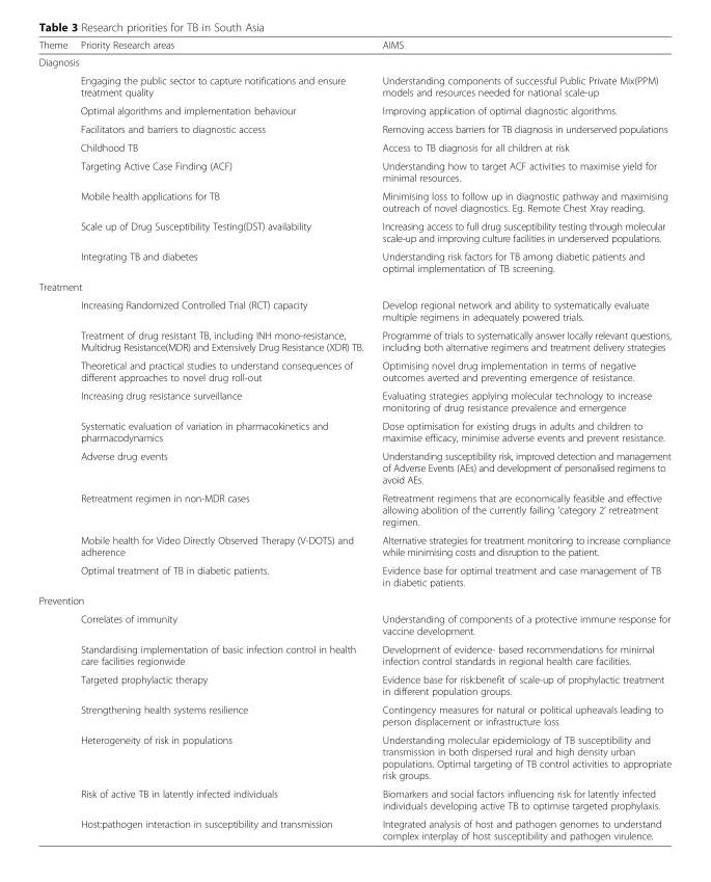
<table><thead><tr><td>Theme</td><td>Priority Research areas</td><td>AIMS</td></tr></thead><tbody><tr><td colspan="3">Diagnosis</td></tr><tr><td></td><td>Engaging the public sector to capture notifications and ensure treatment quality</td><td>Understanding components of successful Public Private Mix(PPM) models and resources needed for national scale-up</td></tr><tr><td></td><td>Optimal algorithms and implementation behaviour</td><td>Improving application of optimal diagnostic algorithms.</td></tr><tr><td></td><td>Facilitators and barriers to diagnostic access</td><td>Removing access barriers for TB diagnosis in underserved populations</td></tr><tr><td></td><td>Childhood TB</td><td>Access to TB diagnosis for all children at risk</td></tr><tr><td></td><td>Targeting Active Case Finding (ACF)</td><td>Understanding how to target ACF activities to maximise yield for minimal resources.</td></tr><tr><td></td><td>Mobile health applications for TB</td><td>Minimising loss to follow up in diagnostic pathway and maximising outreach of novel diagnostics. Eg. Remote Chest Xray reading.</td></tr><tr><td></td><td>Scale up of Drug Susceptibility Testing(DST) availability</td><td>Increasing access to full drug susceptibility testing through molecular scale-up and improving culture facilities in underserved populations.</td></tr><tr><td></td><td>Integrating TB and diabetes</td><td>Understanding risk factors for TB among diabetic patients and optimal implementation of TB screening.</td></tr><tr><td colspan="3">Treatment</td></tr><tr><td></td><td>Increasing Randomized Controlled Trial (RCT) capacity</td><td>Develop regional network and ability to systematically evaluate multiple regimens in adequately powered trials.</td></tr><tr><td></td><td>Treatment of drug resistant TB, including INH mono-resistance, Multidrug Resistance(MDR) and Extensively Drug Resistance (XDR) TB.</td><td>Programme of trials to systematically answer locally relevant questions, including both alternative regimens and treatment delivery strategies</td></tr><tr><td></td><td>Theoretical and practical studies to understand consequences of different approaches to novel drug roll-out</td><td>Optimising novel drug implementation in terms of negative outcomes averted and preventing emergence of resistance.</td></tr><tr><td></td><td>Increasing drug resistance surveillance</td><td>Evaluating strategies applying molecular technology to increase monitoring of drug resistance prevalence and emergence</td></tr><tr><td></td><td>Systematic evaluation of variation in pharmacokinetics and pharmacodynamics</td><td>Dose optimisation for existing drugs in adults and children to maximise efficacy, minimise adverse events and prevent resistance.</td></tr><tr><td></td><td>Adverse drug events</td><td>Understanding susceptibility risk, improved detection and management of Adverse Events (AEs) and development of personalised regimens to avoid AEs.</td></tr><tr><td></td><td>Retreatment regimen in non-MDR cases</td><td>Retreatment regimens that are economically feasible and effective allowing abolition of the currently failing ‘category 2’ retreatment regimen.</td></tr><tr><td></td><td>Mobile health for Video Directly Observed Therapy (V-DOTS) and adherence</td><td>Alternative strategies for treatment monitoring to increase compliance while minimising costs and disruption to the patient.</td></tr><tr><td></td><td>Optimal treatment of TB in diabetic patients.</td><td>Evidence base for optimal treatment and case management of TB in diabetic patients.</td></tr><tr><td colspan="3">Prevention</td></tr><tr><td></td><td>Correlates of immunity</td><td>Understanding of components of a protective immune response for vaccine development.</td></tr><tr><td></td><td>Standardising implementation of basic infection control in health care facilities regionwide</td><td>Development of evidence- based recommendations for minimal infection control standards in regional health care facilities.</td></tr><tr><td></td><td>Targeted prophylactic therapy</td><td>Evidence base for risk:benefit of scale-up of prophylactic treatment in different population groups.</td></tr><tr><td></td><td>Strengthening health systems resilience</td><td>Contingency measures for natural or political upheavals leading to person displacement or infrastructure loss</td></tr><tr><td></td><td>Heterogeneity of risk in populations</td><td>Understanding molecular epidemiology of TB susceptibility and transmission in both dispersed rural and high density urban populations. Optimal targeting of TB control activities to appropriate risk groups.</td></tr><tr><td></td><td>Risk of active TB in latently infected individuals</td><td>Biomarkers and social factors influencing risk for latently infected individuals developing active TB to optimise targeted prophylaxis.</td></tr><tr><td></td><td>Host:pathogen interaction in susceptibility and transmission</td><td>Integrated analysis of host and pathogen genomes to understand complex interplay of host susceptibility and pathogen virulence.</td></tr></tbody></table>